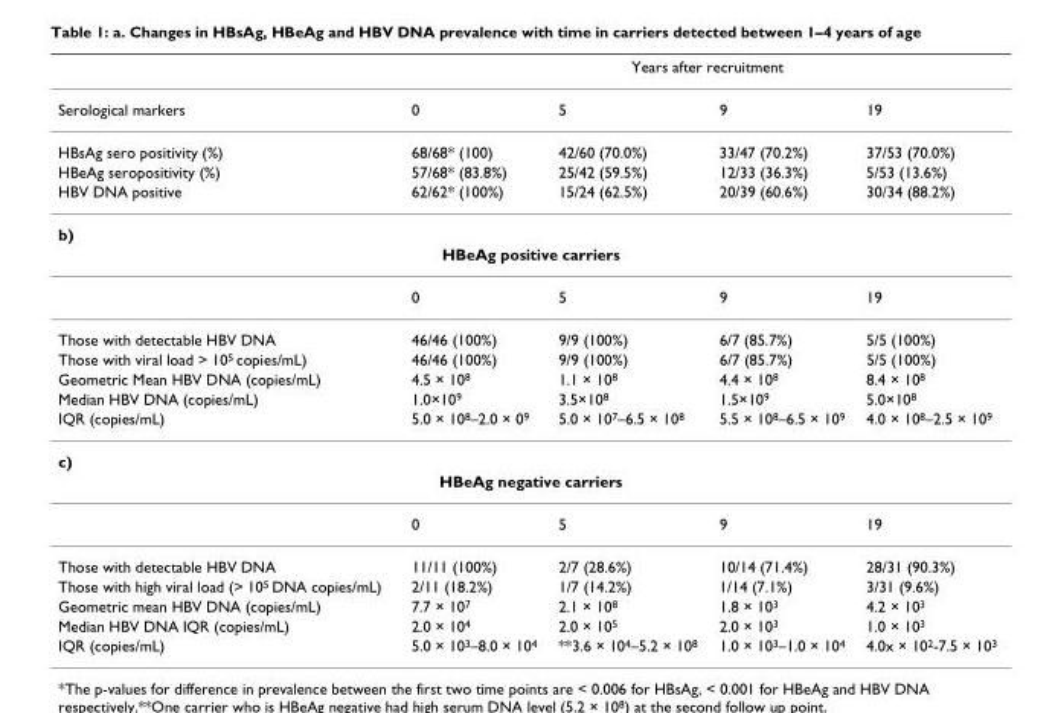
<table><thead><tr><td rowspan="2">Serological markers</td><td colspan="4">Years after recruitment</td></tr><tr><td>0</td><td>5</td><td>9</td><td>19</td></tr></thead><tbody><tr><td>HBsAg sero positivity (%)</td><td>68/68* (100)</td><td>42/60 (70.0%)</td><td>33/47 (70.2%)</td><td>37/53 (70.0%)</td></tr><tr><td>HBeAg seropositivity (%)</td><td>57/68* (83.8%)</td><td>25/42 (59.5%)</td><td>12/33 (36.3%)</td><td>5/53 (13.6%)</td></tr><tr><td>HBV DNA positive</td><td>62/62* (100%)</td><td>15/24 (62.5%)</td><td>20/39 (60.6%)</td><td>30/34 (88.2%)</td></tr><tr><td colspan="5">b)</td></tr><tr><td colspan="5">HBeAg positive carriers</td></tr><tr><td></td><td>0</td><td>5</td><td>9</td><td>19</td></tr><tr><td>Those with detectable HBV DNA</td><td>46/46 (100%)</td><td>9/9 (100%)</td><td>6/7 (85.7%)</td><td>5/5 (100%)</td></tr><tr><td>Those with viral load &gt; 10<sup>5</sup> copies/mL)</td><td>46/46 (100%)</td><td>9/9 (100%)</td><td>6/7 (85.7%)</td><td>5/5 (100%)</td></tr><tr><td>Geometric Mean HBV DNA (copies/mL)</td><td>4.5 × 10<sup>8</sup></td><td>1.1 × 10<sup>8</sup></td><td>4.4 × 10<sup>8</sup></td><td>8.4 × 10<sup>8</sup></td></tr><tr><td>Median HBV DNA (copies/mL)</td><td>1.0×10<sup>9</sup></td><td>3.5×10<sup>8</sup></td><td>1.5×10<sup>9</sup></td><td>5.0×10<sup>8</sup></td></tr><tr><td>IQR (copies/mL)</td><td>5.0 × 10<sup>8</sup>–2.0 × 0<sup>9</sup></td><td>5.0 × 10<sup>7</sup>–6.5 × 10<sup>8</sup></td><td>5.5 × 10<sup>8</sup>–6.5 × 10<sup>9</sup></td><td>4.0 × 10<sup>8</sup>–2.5 × 10<sup>9</sup></td></tr><tr><td colspan="5">c)</td></tr><tr><td colspan="5">HBeAg negative carriers</td></tr><tr><td></td><td>0</td><td>5</td><td>9</td><td>19</td></tr><tr><td>Those with detectable HBV DNA</td><td>11/11 (100%)</td><td>2/7 (28.6%)</td><td>10/14 (71.4%)</td><td>28/31 (90.3%)</td></tr><tr><td>Those with high viral load (&gt; 10<sup>5</sup> DNA copies/mL)</td><td>2/11 (18.2%)</td><td>1/7 (14.2%)</td><td>1/14 (7.1%)</td><td>3/31 (9.6%)</td></tr><tr><td>Geometric mean HBV DNA (copies/mL)</td><td>7.7 × 10<sup>7</sup></td><td>2.1 × 10<sup>8</sup></td><td>1.8 × 10<sup>3</sup></td><td>4.2 × 10<sup>3</sup></td></tr><tr><td>Median HBV DNA IQR (copies/mL)</td><td>2.0 × 10<sup>4</sup></td><td>2.0 × 10<sup>5</sup></td><td>2.0 × 10<sup>3</sup></td><td>1.0 × 10<sup>3</sup></td></tr><tr><td>IQR (copies/mL)</td><td>5.0 × 10<sup>3</sup>–8.0 × 10<sup>4</sup></td><td>**3.6 × 10<sup>4</sup>–5.2 × 10<sup>8</sup></td><td>1.0 × 10<sup>3</sup>–1.0 × 10<sup>4</sup></td><td>4.0x × 10<sup>2</sup>-7.5 × 10<sup>3</sup></td></tr></tbody></table>